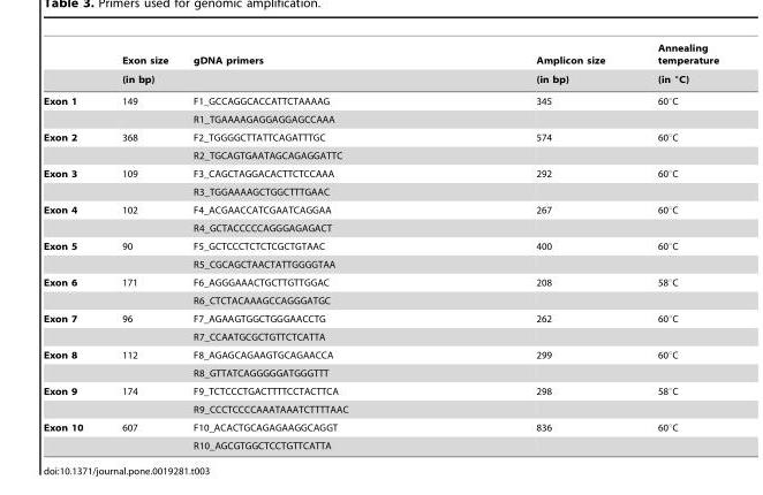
<table><thead><tr><td rowspan="2"></td><td rowspan="2">Exon size (in bp)</td><td rowspan="2">gDNA primers</td><td rowspan="2">Amplicon size (in bp)</td><td rowspan="2">Annealing temperature (in °C)</td></tr><tr></tr></thead><tbody><tr><td rowspan="2">Exon 1</td><td>149</td><td>F1_GCCAGGCACCATTCTAAAAG</td><td>345</td><td>60°C</td></tr><tr><td></td><td>R1_TGAAAAGAGGAGGAGCCAAA</td><td></td><td></td></tr><tr><td rowspan="2">Exon 2</td><td>368</td><td>F2_TGGGGCTTATTCAGATTTGC</td><td>574</td><td>60°C</td></tr><tr><td></td><td>R2_TGCAGTGAATAGCAGAGGATTC</td><td></td><td></td></tr><tr><td rowspan="2">Exon 3</td><td>109</td><td>F3_CAGCTAGGACACTTCTCCAAA</td><td>292</td><td>60°C</td></tr><tr><td></td><td>R3_TGGAAAAGCTGGCTTTGAAC</td><td></td><td></td></tr><tr><td rowspan="2">Exon 4</td><td>102</td><td>F4_ACGAACCATCGAATCAGGAA</td><td>267</td><td>60°C</td></tr><tr><td></td><td>R4_GCTACCCCCAGGGAGAGACT</td><td></td><td></td></tr><tr><td rowspan="2">Exon 5</td><td>90</td><td>F5_GCTCCCTCTCTCGCTGTAAC</td><td>400</td><td>60°C</td></tr><tr><td></td><td>R5_CGCAGCTAACTATTGGGGTAA</td><td></td><td></td></tr><tr><td rowspan="2">Exon 6</td><td>171</td><td>F6_AGGGAAACTGCTTGTTGGAC</td><td>208</td><td>58°C</td></tr><tr><td></td><td>R6_CTCTACAAAGCCAGGGATGC</td><td></td><td></td></tr><tr><td rowspan="2">Exon 7</td><td>96</td><td>F7_AGAAGTGGCTGGGAACCTG</td><td>262</td><td>60°C</td></tr><tr><td></td><td>R7_CCAATGCGCTGTTCTCATTA</td><td></td><td></td></tr><tr><td rowspan="2">Exon 8</td><td>112</td><td>F8_AGAGCAGAAGTGCAGAACCA</td><td>299</td><td>60°C</td></tr><tr><td></td><td>R8_GTTATCAGGGGGATGGGTTT</td><td></td><td></td></tr><tr><td rowspan="2">Exon 9</td><td>174</td><td>F9_TCTCCCTGACTTTTCCTACTTCA</td><td>298</td><td>58°C</td></tr><tr><td></td><td>R9_CCCTCCCCAAATAAATCTTTTAAC</td><td></td><td></td></tr><tr><td rowspan="2">Exon 10</td><td>607</td><td>F10_ACACTGCAGAGAAGGCAGGT</td><td>836</td><td>60°C</td></tr><tr><td></td><td>R10_AGCGTGGCTCCTGTTCATTA</td><td></td><td></td></tr></tbody></table>